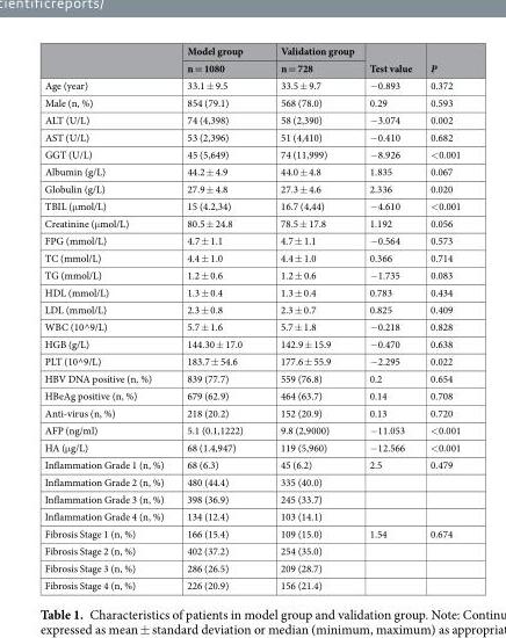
<table><thead><tr><td rowspan="2"></td><td rowspan="2">Model group n = 1080</td><td rowspan="2">Validation group n = 728</td><td rowspan="2">Test value</td><td rowspan="2">P</td></tr><tr></tr></thead><tbody><tr><td>Age (year)</td><td>33.1 ± 9.5</td><td>33.5 ± 9.7</td><td>−0.893</td><td>0.372</td></tr><tr><td>Male (n, %)</td><td>854 (79.1)</td><td>568 (78.0)</td><td>0.29</td><td>0.593</td></tr><tr><td>ALT (U/L)</td><td>74 (4,398)</td><td>58 (2,390)</td><td>−3.074</td><td>0.002</td></tr><tr><td>AST (U/L)</td><td>53 (2,396)</td><td>51 (4,410)</td><td>−0.410</td><td>0.682</td></tr><tr><td>GGT (U/L)</td><td>45 (5,649)</td><td>74 (11,999)</td><td>−8.926</td><td>&lt;0.001</td></tr><tr><td>Albumin (g/L)</td><td>44.2 ± 4.9</td><td>44.0 ± 4.8</td><td>1.835</td><td>0.067</td></tr><tr><td>Globulin (g/L)</td><td>27.9 ± 4.8</td><td>27.3 ± 4.6</td><td>2.336</td><td>0.020</td></tr><tr><td>TBIL (μmol/L)</td><td>15 (4.2,34)</td><td>16.7 (4,44)</td><td>−4.610</td><td>&lt;0.001</td></tr><tr><td>Creatinine (μmol/L)</td><td>80.5 ± 24.8</td><td>78.5 ± 17.8</td><td>1.192</td><td>0.056</td></tr><tr><td>FPG (mmol/L)</td><td>4.7 ± 1.1</td><td>4.7 ± 1.1</td><td>−0.564</td><td>0.573</td></tr><tr><td>TC (mmol/L)</td><td>4.4 ± 1.0</td><td>4.4 ± 1.0</td><td>0.366</td><td>0.714</td></tr><tr><td>TG (mmol/L)</td><td>1.2 ± 0.6</td><td>1.2 ± 0.6</td><td>−1.735</td><td>0.083</td></tr><tr><td>HDL (mmol/L)</td><td>1.3 ± 0.4</td><td>1.3 ± 0.4</td><td>0.783</td><td>0.434</td></tr><tr><td>LDL (mmol/L)</td><td>2.3 ± 0.8</td><td>2.3 ± 0.7</td><td>0.825</td><td>0.409</td></tr><tr><td>WBC (10^9/L)</td><td>5.7 ± 1.6</td><td>5.7 ± 1.8</td><td>−0.218</td><td>0.828</td></tr><tr><td>HGB (g/L)</td><td>144.30 ± 17.0</td><td>142.9 ± 15.9</td><td>−0.470</td><td>0.638</td></tr><tr><td>PLT (10^9/L)</td><td>183.7 ± 54.6</td><td>177.6 ± 55.9</td><td>−2.295</td><td>0.022</td></tr><tr><td>HBV DNA positive (n, %)</td><td>839 (77.7)</td><td>559 (76.8)</td><td>0.2</td><td>0.654</td></tr><tr><td>HBeAg positive (n, %)</td><td>679 (62.9)</td><td>464 (63.7)</td><td>0.14</td><td>0.708</td></tr><tr><td>Anti-virus (n, %)</td><td>218 (20.2)</td><td>152 (20.9)</td><td>0.13</td><td>0.720</td></tr><tr><td>AFP (ng/ml)</td><td>5.1 (0.1,1222)</td><td>9.8 (2,9000)</td><td>−11.053</td><td>&lt;0.001</td></tr><tr><td>HA (μg/L)</td><td>68 (1.4,947)</td><td>119 (5,960)</td><td>−12.566</td><td>&lt;0.001</td></tr><tr><td>Inflammation Grade 1 (n, %)</td><td>68 (6.3)</td><td>45 (6.2)</td><td>2.5</td><td>0.479</td></tr><tr><td>Inflammation Grade 2 (n, %)</td><td>480 (44.4)</td><td>335 (40.0)</td><td></td><td></td></tr><tr><td>Inflammation Grade 3 (n, %)</td><td>398 (36.9)</td><td>245 (33.7)</td><td></td><td></td></tr><tr><td>Inflammation Grade 4 (n, %)</td><td>134 (12.4)</td><td>103 (14.1)</td><td></td><td></td></tr><tr><td>Fibrosis Stage 1 (n, %)</td><td>166 (15.4)</td><td>109 (15.0)</td><td>1.54</td><td>0.674</td></tr><tr><td>Fibrosis Stage 2 (n, %)</td><td>402 (37.2)</td><td>254 (35.0)</td><td></td><td></td></tr><tr><td>Fibrosis Stage 3 (n, %)</td><td>286 (26.5)</td><td>209 (28.7)</td><td></td><td></td></tr><tr><td>Fibrosis Stage 4 (n, %)</td><td>226 (20.9)</td><td>156 (21.4)</td><td></td><td></td></tr></tbody></table>